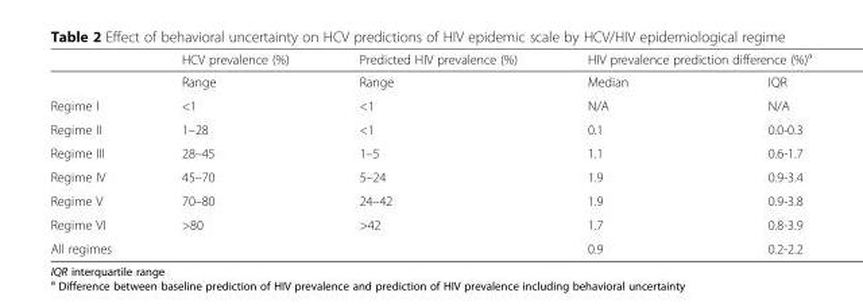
<table><thead><tr><td rowspan="2"></td><td rowspan="2">HCV prevalence (%) Range</td><td rowspan="2">Predicted HIV prevalence (%) Range</td><td colspan="2">HIV prevalence prediction difference (%)<sup>a</sup></td></tr><tr><td>Median</td><td>IQR</td></tr></thead><tbody><tr><td>Regime I</td><td>&lt;1</td><td>&lt;1</td><td>N/A</td><td>N/A</td></tr><tr><td>Regime II</td><td>1–28</td><td>&lt;1</td><td>0.1</td><td>0.0-0.3</td></tr><tr><td>Regime III</td><td>28–45</td><td>1–5</td><td>1.1</td><td>0.6-1.7</td></tr><tr><td>Regime IV</td><td>45–70</td><td>5–24</td><td>1.9</td><td>0.9-3.4</td></tr><tr><td>Regime V</td><td>70–80</td><td>24–42</td><td>1.9</td><td>0.9-3.8</td></tr><tr><td>Regime VI</td><td>&gt;80</td><td>&gt;42</td><td>1.7</td><td>0.8-3.9</td></tr><tr><td>All regimes</td><td></td><td></td><td>0.9</td><td>0.2-2.2</td></tr></tbody></table>